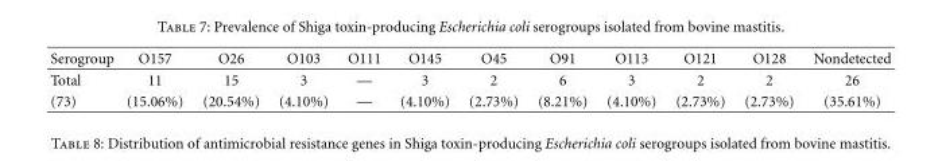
<table><thead><tr><td>Serogroup</td><td>O157</td><td>O26</td><td>O103</td><td>O111</td><td>O145</td><td>O45</td><td>O91</td><td>O113</td><td>O121</td><td>O128</td><td>Nondetected</td></tr></thead><tbody><tr><td>Total</td><td>11</td><td>15</td><td>3</td><td>—</td><td>3</td><td>2</td><td>6</td><td>3</td><td>2</td><td>2</td><td>26</td></tr><tr><td>(73)</td><td>(15.06%)</td><td>(20.54%)</td><td>(4.10%)</td><td>—</td><td>(4.10%)</td><td>(2.73%)</td><td>(8.21%)</td><td>(4.10%)</td><td>(2.73%)</td><td>(2.73%)</td><td>(35.61%)</td></tr></tbody></table>